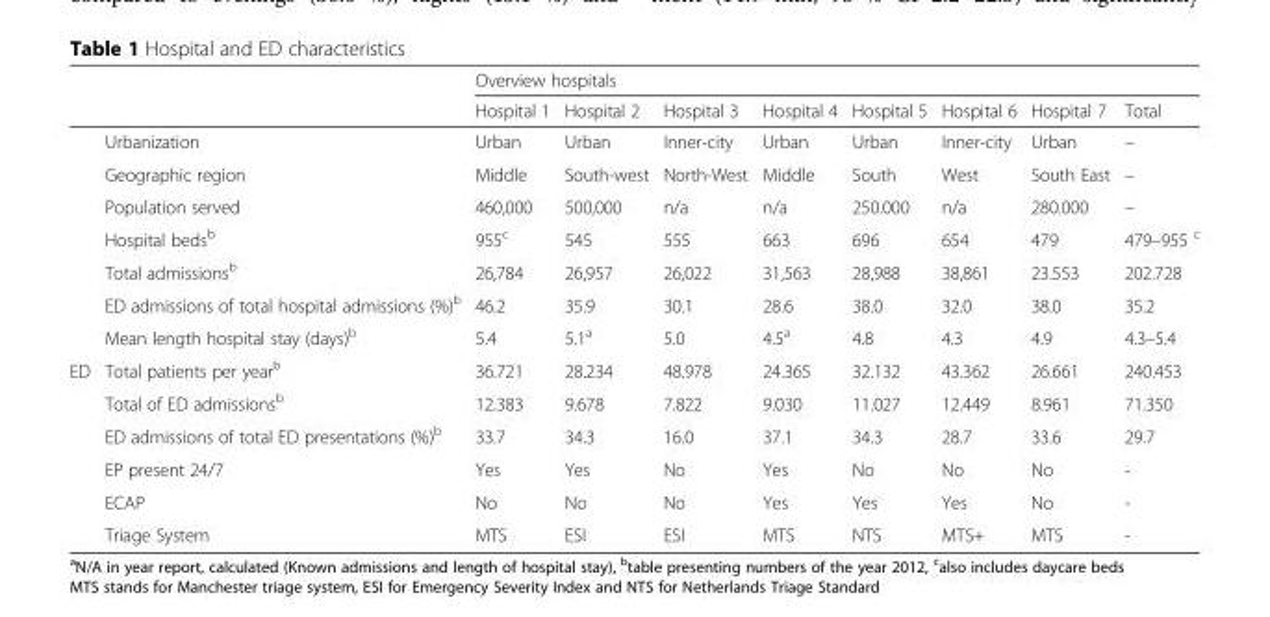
<table><thead><tr><td rowspan="2"></td><td rowspan="2"></td><td colspan="8">Overview hospitals</td></tr><tr><td>Hospital 1</td><td>Hospital 2</td><td>Hospital 3</td><td>Hospital 4</td><td>Hospital 5</td><td>Hospital 6</td><td>Hospital 7</td><td>Total</td></tr></thead><tbody><tr><td rowspan="7"></td><td>Urbanization</td><td>Urban</td><td>Urban</td><td>Inner-city</td><td>Urban</td><td>Urban</td><td>Inner-city</td><td>Urban</td><td>–</td></tr><tr><td>Geographic region</td><td>Middle</td><td>South-west</td><td>North-West</td><td>Middle</td><td>South</td><td>West</td><td>South East</td><td>–</td></tr><tr><td>Population served</td><td>460,000</td><td>500,000</td><td>n/a</td><td>n/a</td><td>250.000</td><td>n/a</td><td>280.000</td><td>–</td></tr><tr><td>Hospital beds<sup>b</sup></td><td>955<sup>c</sup></td><td>545</td><td>555</td><td>663</td><td>696</td><td>654</td><td>479</td><td>479–955 <sup>c</sup></td></tr><tr><td>Total admissions<sup>b</sup></td><td>26,784</td><td>26,957</td><td>26,022</td><td>31,563</td><td>28,988</td><td>38,861</td><td>23.553</td><td>202.728</td></tr><tr><td>ED admissions of total hospital admissions (%)<sup>b</sup></td><td>46.2</td><td>35.9</td><td>30.1</td><td>28.6</td><td>38.0</td><td>32.0</td><td>38.0</td><td>35.2</td></tr><tr><td>Mean length hospital stay (days)<sup>b</sup></td><td>5.4</td><td>5.1<sup>a</sup></td><td>5.0</td><td>4.5<sup>a</sup></td><td>4.8</td><td>4.3</td><td>4.9</td><td>4.3–5.4</td></tr><tr><td rowspan="6">ED</td><td>Total patients per year<sup>b</sup></td><td>36.721</td><td>28.234</td><td>48.978</td><td>24.365</td><td>32.132</td><td>43.362</td><td>26.661</td><td>240.453</td></tr><tr><td>Total of ED admissions<sup>b</sup></td><td>12.383</td><td>9.678</td><td>7.822</td><td>9.030</td><td>11.027</td><td>12.449</td><td>8.961</td><td>71.350</td></tr><tr><td>ED admissions of total ED presentations (%)<sup>b</sup></td><td>33.7</td><td>34.3</td><td>16.0</td><td>37.1</td><td>34.3</td><td>28.7</td><td>33.6</td><td>29.7</td></tr><tr><td>EP present 24/7</td><td>Yes</td><td>Yes</td><td>No</td><td>Yes</td><td>No</td><td>No</td><td>No</td><td>-</td></tr><tr><td>ECAP</td><td>No</td><td>No</td><td>No</td><td>Yes</td><td>Yes</td><td>Yes</td><td>No</td><td>-</td></tr><tr><td>Triage System</td><td>MTS</td><td>ESI</td><td>ESI</td><td>MTS</td><td>NTS</td><td>MTS+</td><td>MTS</td><td>-</td></tr></tbody></table>